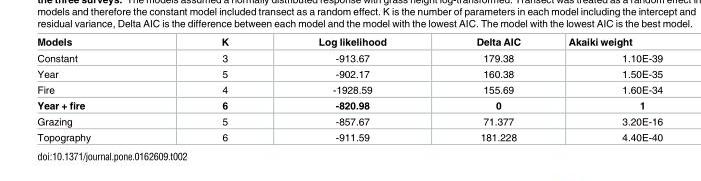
<table><thead><tr><td>Models</td><td>K</td><td>Log likelihood</td><td>Delta AIC</td><td>Akaiki weight</td></tr></thead><tbody><tr><td>Constant</td><td>3</td><td>-913.67</td><td>179.38</td><td>1.10E-39</td></tr><tr><td>Year</td><td>5</td><td>-902.17</td><td>160.38</td><td>1.50E-35</td></tr><tr><td>Fire</td><td>4</td><td>-1928.59</td><td>155.69</td><td>1.60E-34</td></tr><tr><td>Year + fire</td><td>6</td><td>-820.98</td><td>0</td><td>1</td></tr><tr><td>Grazing</td><td>5</td><td>-857.67</td><td>71.377</td><td>3.20E-16</td></tr><tr><td>Topography</td><td>6</td><td>-911.59</td><td>181.228</td><td>4.40E-40</td></tr></tbody></table>